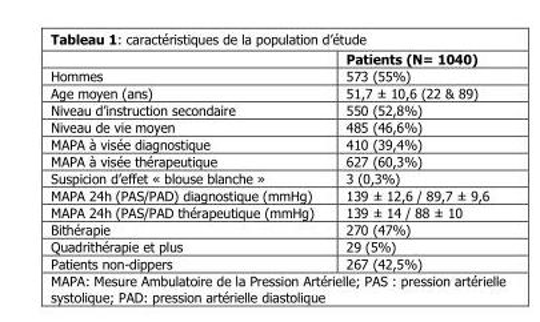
<table><thead><tr><td></td><td>Patients (N= 1040)</td></tr></thead><tbody><tr><td>Hommes</td><td>573 (55%)</td></tr><tr><td>Age moyen (ans)</td><td>51,7 ± 10,6 (22 &amp; 89)</td></tr><tr><td>Niveau d’instruction secondaire</td><td>550 (52,8%)</td></tr><tr><td>Niveau de vie moyen</td><td>485 (46,6%)</td></tr><tr><td>MAPA à visée diagnostique</td><td>410 (39,4%)</td></tr><tr><td>MAPA à visée thérapeutique</td><td>627 (60,3%)</td></tr><tr><td>Suspicion d’effet « blouse blanche »</td><td>3 (0,3%)</td></tr><tr><td>MAPA 24h (PAS/PAD) diagnostique (mmHg)</td><td>139 ± 12,6 / 89,7 ± 9,6</td></tr><tr><td>MAPA 24h (PAS/PAD thérapeutique (mmHg)</td><td>139 ± 14 / 88 ± 10</td></tr><tr><td>Bithérapie</td><td>270 (47%)</td></tr><tr><td>Quadrithérapie et plus</td><td>29 (5%)</td></tr><tr><td>Patients non-dippers</td><td>267 (42,5%)</td></tr></tbody></table>